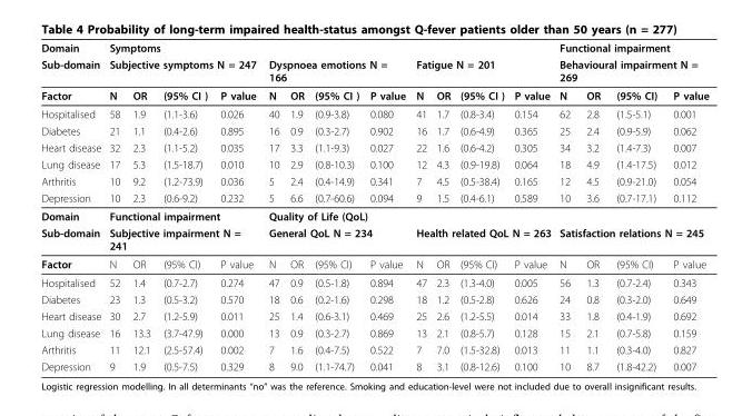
<table><thead><tr><td rowspan="3">Domain Sub-domain Factor</td><td rowspan="2" colspan="4">Symptoms Subjective symptoms N = 247</td><td></td><td></td><td></td><td></td><td></td><td></td><td></td><td></td><td rowspan="2" colspan="4">Functional impairment Behavioural impairment N = 269</td></tr><tr><td colspan="4">Dyspnoea emotions N = 166</td><td colspan="4">Fatigue N = 201</td></tr><tr><td>N</td><td>OR</td><td>(95% CI )</td><td>P value</td><td>N</td><td>OR</td><td>(95% CI )</td><td>P value</td><td>N</td><td>OR</td><td>(95% CI )</td><td>P value</td><td>N</td><td>OR</td><td>(95% CI)</td><td>P value</td></tr></thead><tbody><tr><td>Hospitalised</td><td>58</td><td>1.9</td><td>(1.1-3.6)</td><td>0.026</td><td>40</td><td>1.9</td><td>(0.9-3.8)</td><td>0.080</td><td>41</td><td>1.7</td><td>(0.8-3.4)</td><td>0.154</td><td>62</td><td>2.8</td><td>(1.5-5.1)</td><td>0.001</td></tr><tr><td>Diabetes</td><td>21</td><td>1.1</td><td>(0.4-2.6)</td><td>0.895</td><td>16</td><td>0.9</td><td>(0.3-2.7)</td><td>0.902</td><td>16</td><td>1.7</td><td>(0.6-4.9)</td><td>0.365</td><td>25</td><td>2.4</td><td>(0.9-5.9)</td><td>0.062</td></tr><tr><td>Heart disease</td><td>32</td><td>2.3</td><td>(1.1-5.2)</td><td>0.035</td><td>17</td><td>3.3</td><td>(1.1-9.3)</td><td>0.027</td><td>22</td><td>1.6</td><td>(0.6-4.2)</td><td>0.305</td><td>34</td><td>3.2</td><td>(1.4-7.3)</td><td>0.007</td></tr><tr><td>Lung disease</td><td>17</td><td>5.3</td><td>(1.5-18.7)</td><td>0.010</td><td>10</td><td>2.9</td><td>(0.8-10.3)</td><td>0.100</td><td>12</td><td>4.3</td><td>(0.9-19.8)</td><td>0.064</td><td>18</td><td>4.9</td><td>(1.4-17.5)</td><td>0.012</td></tr><tr><td>Arthritis</td><td>10</td><td>9.2</td><td>(1.2-73.9)</td><td>0.036</td><td>5</td><td>2.4</td><td>(0.4-14.9)</td><td>0.341</td><td>7</td><td>4.5</td><td>(0.5-38.4)</td><td>0.165</td><td>12</td><td>4.5</td><td>(0.9-21.0)</td><td>0.054</td></tr><tr><td>Depression</td><td>10</td><td>2.3</td><td>(0.6-9.2)</td><td>0.232</td><td>5</td><td>6.6</td><td>(0.7-60.6)</td><td>0.094</td><td>9</td><td>1.5</td><td>(0.4-6.1)</td><td>0.589</td><td>10</td><td>3.6</td><td>(0.7-17.1)</td><td>0.112</td></tr><tr><td>Domain</td><td colspan="4">Functional impairment</td><td colspan="4">Quality of Life (QoL)</td><td></td><td></td><td></td><td></td><td></td><td></td><td></td><td></td></tr><tr><td>Sub-domain</td><td colspan="4">Subjective impairment N = 241</td><td colspan="4">General QoL N = 234</td><td colspan="4">Health related QoL N = 263</td><td colspan="4">Satisfaction relations N = 245</td></tr><tr><td>Factor</td><td>N</td><td>OR</td><td>(95% CI)</td><td>P value</td><td>N</td><td>OR</td><td>(95% CI)</td><td>P value</td><td>N</td><td>OR</td><td>(95% CI)</td><td>P value</td><td>N</td><td>OR</td><td>(95% CI)</td><td>P value</td></tr><tr><td>Hospitalised</td><td>52</td><td>1.4</td><td>(0.7-2.7)</td><td>0.274</td><td>47</td><td>0.9</td><td>(0.5-1.8)</td><td>0.894</td><td>47</td><td>2.3</td><td>(1.3-4.0)</td><td>0.005</td><td>56</td><td>1.3</td><td>(0.7-2.4)</td><td>0.343</td></tr><tr><td>Diabetes</td><td>23</td><td>1.3</td><td>(0.5-3.2)</td><td>0.570</td><td>18</td><td>0.6</td><td>(0.2-1.6)</td><td>0.298</td><td>18</td><td>1.2</td><td>(0.5-2.8)</td><td>0.626</td><td>24</td><td>0.8</td><td>(0.3-2.0)</td><td>0.649</td></tr><tr><td>Heart disease</td><td>30</td><td>2.7</td><td>(1.2-5.9)</td><td>0.011</td><td>25</td><td>1.4</td><td>(0.6-3.1)</td><td>0.469</td><td>25</td><td>2.6</td><td>(1.2-5.5)</td><td>0.014</td><td>33</td><td>1.8</td><td>(0.4-1.9)</td><td>0.692</td></tr><tr><td>Lung disease</td><td>16</td><td>13.3</td><td>(3.7-47.9)</td><td>0.000</td><td>13</td><td>0.9</td><td>(0.3-2.7)</td><td>0.869</td><td>13</td><td>2.1</td><td>(0.8-5.7)</td><td>0.128</td><td>15</td><td>2.1</td><td>(0.7-5.8)</td><td>0.159</td></tr><tr><td>Arthritis</td><td>11</td><td>12.1</td><td>(2.5-57.4)</td><td>0.002</td><td>7</td><td>1.6</td><td>(0.4-7.5)</td><td>0.522</td><td>7</td><td>7.0</td><td>(1.5-32.8)</td><td>0.013</td><td>11</td><td>1.1</td><td>(0.3-4.0)</td><td>0.827</td></tr><tr><td>Depression</td><td>9</td><td>1.9</td><td>(0.5-7.5)</td><td>0.329</td><td>8</td><td>9.0</td><td>(1.1-74.7)</td><td>0.041</td><td>8</td><td>3.1</td><td>(0.8-12.6)</td><td>0.100</td><td>10</td><td>8.7</td><td>(1.8-42.2)</td><td>0.007</td></tr></tbody></table>